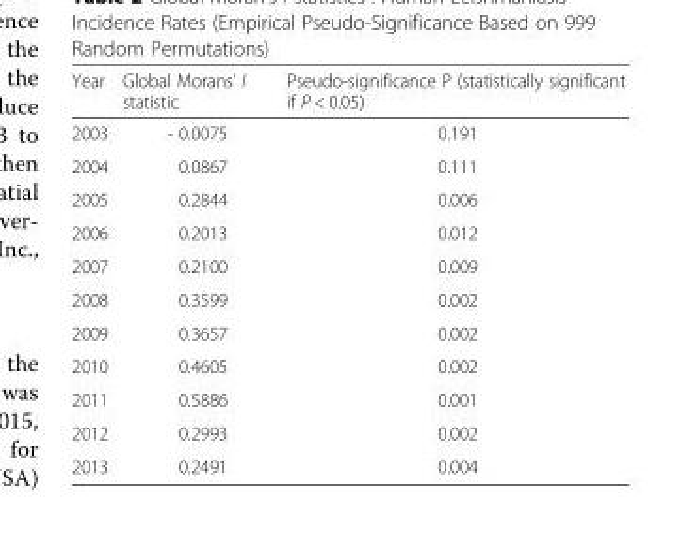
<table><thead><tr><td>Year</td><td>Global Morans’ I statistic</td><td>Pseudo-significance P (statistically significant if P &lt; 0.05)</td></tr></thead><tbody><tr><td>2003</td><td>- 0.0075</td><td>0.191</td></tr><tr><td>2004</td><td>0.0867</td><td>0.111</td></tr><tr><td>2005</td><td>0.2844</td><td>0.006</td></tr><tr><td>2006</td><td>0.2013</td><td>0.012</td></tr><tr><td>2007</td><td>0.2100</td><td>0.009</td></tr><tr><td>2008</td><td>0.3599</td><td>0.002</td></tr><tr><td>2009</td><td>0.3657</td><td>0.002</td></tr><tr><td>2010</td><td>0.4605</td><td>0.002</td></tr><tr><td>2011</td><td>0.5886</td><td>0.001</td></tr><tr><td>2012</td><td>0.2993</td><td>0.002</td></tr><tr><td>2013</td><td>0.2491</td><td>0.004</td></tr></tbody></table>